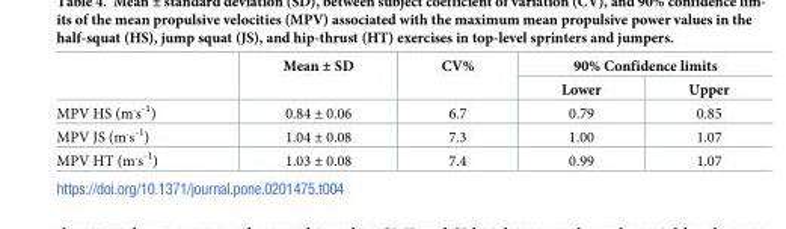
<table><thead><tr><td rowspan="2"></td><td rowspan="2">Mean ± SD</td><td rowspan="2">CV%</td><td colspan="2">90% Confidence limits</td></tr><tr><td>Lower</td><td>Upper</td></tr></thead><tbody><tr><td>MPV HS (m<sup>.</sup>s<sup>-1</sup>)</td><td>0.84 ± 0.06</td><td>6.7</td><td>0.79</td><td>0.85</td></tr><tr><td>MPV JS (m<sup>.</sup>s<sup>-1</sup>)</td><td>1.04 ± 0.08</td><td>7.3</td><td>1.00</td><td>1.07</td></tr><tr><td>MPV HT (m<sup>.</sup>s<sup>-1</sup>)</td><td>1.03 ± 0.08</td><td>7.4</td><td>0.99</td><td>1.07</td></tr></tbody></table>